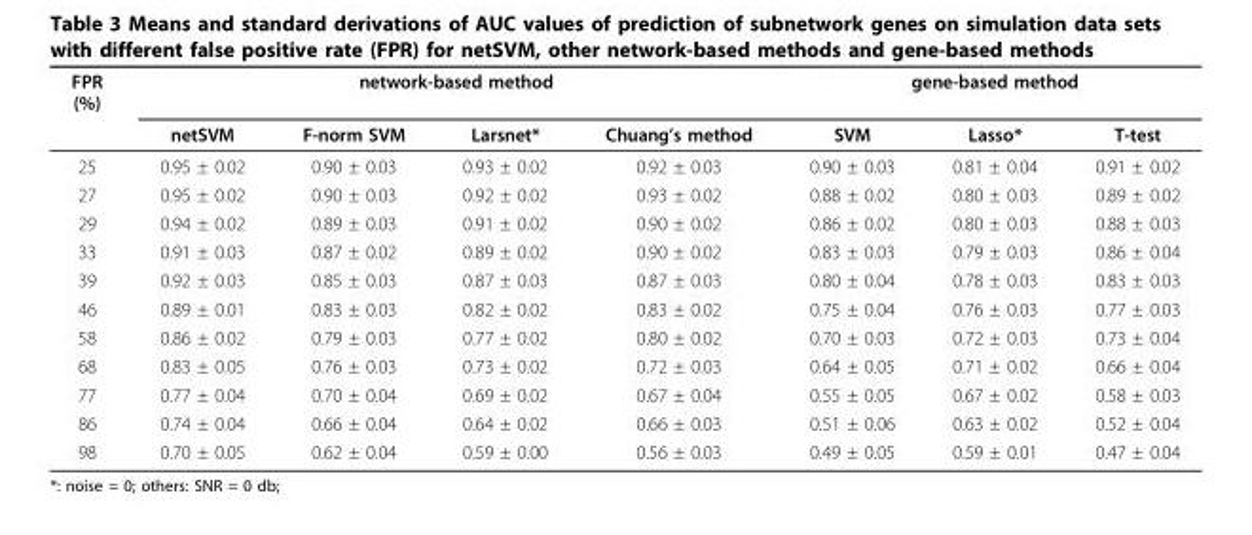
<table><thead><tr><td rowspan="2">FPR (%)</td><td colspan="4">network-based method</td><td colspan="3">gene-based method</td></tr><tr><td>netSVM</td><td>F-norm SVM</td><td>Larsnet*</td><td>Chuang’s method</td><td>SVM</td><td>Lasso*</td><td>T-test</td></tr></thead><tbody><tr><td>25</td><td>0.95 ± 0.02</td><td>0.90 ± 0.03</td><td>0.93 ± 0.02</td><td>0.92 ± 0.03</td><td>0.90 ± 0.03</td><td>0.81 ± 0.04</td><td>0.91 ± 0.02</td></tr><tr><td>27</td><td>0.95 ± 0.02</td><td>0.90 ± 0.03</td><td>0.92 ± 0.02</td><td>0.93 ± 0.02</td><td>0.88 ± 0.02</td><td>0.80 ± 0.03</td><td>0.89 ± 0.02</td></tr><tr><td>29</td><td>0.94 ± 0.02</td><td>0.89 ± 0.03</td><td>0.91 ± 0.02</td><td>0.90 ± 0.02</td><td>0.86 ± 0.02</td><td>0.80 ± 0.03</td><td>0.88 ± 0.03</td></tr><tr><td>33</td><td>0.91 ± 0.03</td><td>0.87 ± 0.02</td><td>0.89 ± 0.02</td><td>0.90 ± 0.02</td><td>0.83 ± 0.03</td><td>0.79 ± 0.03</td><td>0.86 ± 0.04</td></tr><tr><td>39</td><td>0.92 ± 0.03</td><td>0.85 ± 0.03</td><td>0.87 ± 0.03</td><td>0.87 ± 0.03</td><td>0.80 ± 0.04</td><td>0.78 ± 0.03</td><td>0.83 ± 0.03</td></tr><tr><td>46</td><td>0.89 ± 0.01</td><td>0.83 ± 0.03</td><td>0.82 ± 0.02</td><td>0.83 ± 0.02</td><td>0.75 ± 0.04</td><td>0.76 ± 0.03</td><td>0.77 ± 0.03</td></tr><tr><td>58</td><td>0.86 ± 0.02</td><td>0.79 ± 0.03</td><td>0.77 ± 0.02</td><td>0.80 ± 0.02</td><td>0.70 ± 0.03</td><td>0.72 ± 0.03</td><td>0.73 ± 0.04</td></tr><tr><td>68</td><td>0.83 ± 0.05</td><td>0.76 ± 0.03</td><td>0.73 ± 0.02</td><td>0.72 ± 0.03</td><td>0.64 ± 0.05</td><td>0.71 ± 0.02</td><td>0.66 ± 0.04</td></tr><tr><td>77</td><td>0.77 ± 0.04</td><td>0.70 ± 0.04</td><td>0.69 ± 0.02</td><td>0.67 ± 0.04</td><td>0.55 ± 0.05</td><td>0.67 ± 0.02</td><td>0.58 ± 0.03</td></tr><tr><td>86</td><td>0.74 ± 0.04</td><td>0.66 ± 0.04</td><td>0.64 ± 0.02</td><td>0.66 ± 0.03</td><td>0.51 ± 0.06</td><td>0.63 ± 0.02</td><td>0.52 ± 0.04</td></tr><tr><td>98</td><td>0.70 ± 0.05</td><td>0.62 ± 0.04</td><td>0.59 ± 0.00</td><td>0.56 ± 0.03</td><td>0.49 ± 0.05</td><td>0.59 ± 0.01</td><td>0.47 ± 0.04</td></tr></tbody></table>